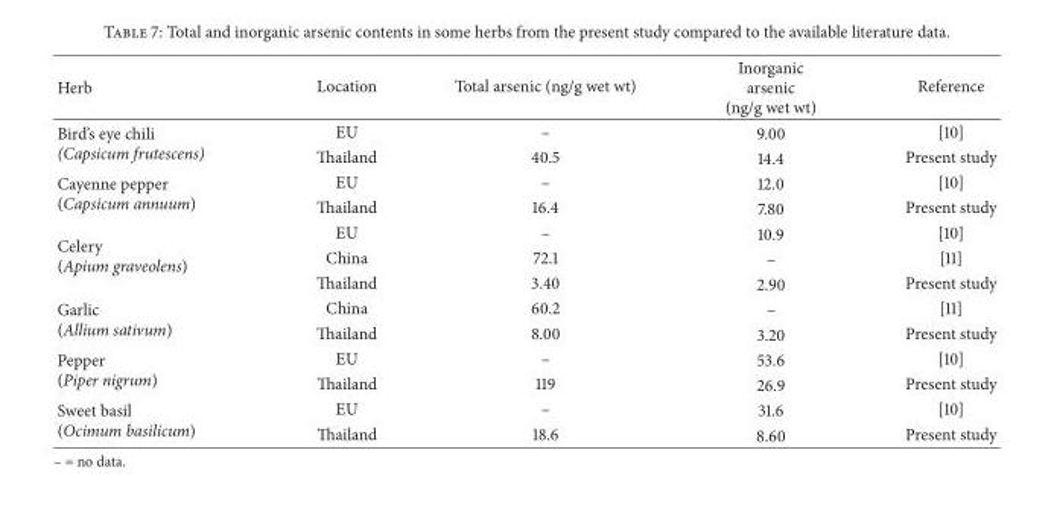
<table><thead><tr><td>Herb</td><td>Location</td><td>Total arsenic (ng/g wet wt)</td><td>Inorganic arsenic (ng/g wet wt)</td><td>Reference</td></tr></thead><tbody><tr><td rowspan="2">Bird’s eye chili (Capsicum frutescens)</td><td>EU</td><td>–</td><td>9.00</td><td>[10]</td></tr><tr><td>Thailand</td><td>40.5</td><td>14.4</td><td>Present study</td></tr><tr><td rowspan="2">Cayenne pepper (Capsicum annuum)</td><td>EU</td><td>–</td><td>12.0</td><td>[10]</td></tr><tr><td>Thailand</td><td>16.4</td><td>7.80</td><td>Present study</td></tr><tr><td rowspan="3">Celery (Apium graveolens)</td><td>EU</td><td>–</td><td>10.9</td><td>[10]</td></tr><tr><td>China</td><td>72.1</td><td>–</td><td>[11]</td></tr><tr><td>Thailand</td><td>3.40</td><td>2.90</td><td>Present study</td></tr><tr><td rowspan="2">Garlic (Allium sativum)</td><td>China</td><td>60.2</td><td>–</td><td>[11]</td></tr><tr><td>Thailand</td><td>8.00</td><td>3.20</td><td>Present study</td></tr><tr><td rowspan="2">Pepper (Piper nigrum)</td><td>EU</td><td>–</td><td>53.6</td><td>[10]</td></tr><tr><td>Thailand</td><td>119</td><td>26.9</td><td>Present study</td></tr><tr><td rowspan="2">Sweet basil (Ocimum basilicum)</td><td>EU</td><td>–</td><td>31.6</td><td>[10]</td></tr><tr><td>Thailand</td><td>18.6</td><td>8.60</td><td>Present study</td></tr></tbody></table>